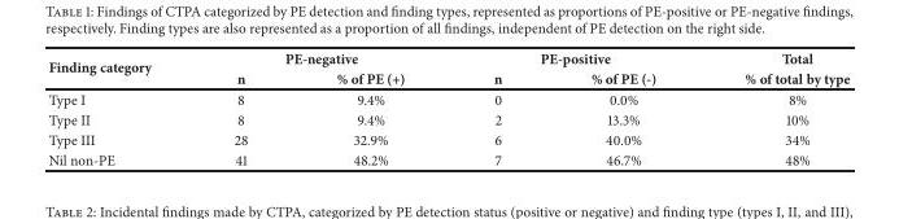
<table><thead><tr><td rowspan="2">Finding category</td><td colspan="2">PE-negative</td><td colspan="2">PE-positive</td><td rowspan="2">Total % of total by type</td></tr><tr><td>n</td><td>% of PE (+)</td><td>n</td><td>% of PE (-)</td></tr></thead><tbody><tr><td>Type I</td><td>8</td><td>9.4%</td><td>0</td><td>0.0%</td><td>8%</td></tr><tr><td>Type II</td><td>8</td><td>9.4%</td><td>2</td><td>13.3%</td><td>10%</td></tr><tr><td>Type III</td><td>28</td><td>32.9%</td><td>6</td><td>40.0%</td><td>34%</td></tr><tr><td>Nil non-PE</td><td>41</td><td>48.2%</td><td>7</td><td>46.7%</td><td>48%</td></tr></tbody></table>